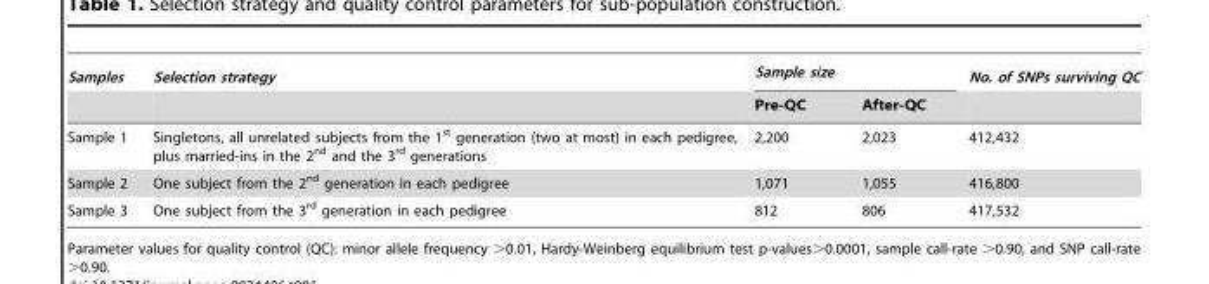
<table><thead><tr><td rowspan="2">Samples</td><td rowspan="2">Selection strategy</td><td colspan="2">Sample size</td><td rowspan="2">No. of SNPs surviving QC</td></tr><tr><td>Pre-QC</td><td>After-QC</td></tr></thead><tbody><tr><td>Sample 1</td><td>Singletons, all unrelated subjects from the 1<sup>st</sup> generation (two at most) in each pedigree, plus married-ins in the 2<sup>nd</sup> and the 3<sup>rd</sup> generations</td><td>2,200</td><td>2,023</td><td>412,432</td></tr><tr><td>Sample 2</td><td>One subject from the 2<sup>nd</sup> generation in each pedigree</td><td>1,071</td><td>1,055</td><td>416,800</td></tr><tr><td>Sample 3</td><td>One subject from the 3<sup>rd</sup> generation in each pedigree</td><td>812</td><td>806</td><td>417,532</td></tr></tbody></table>